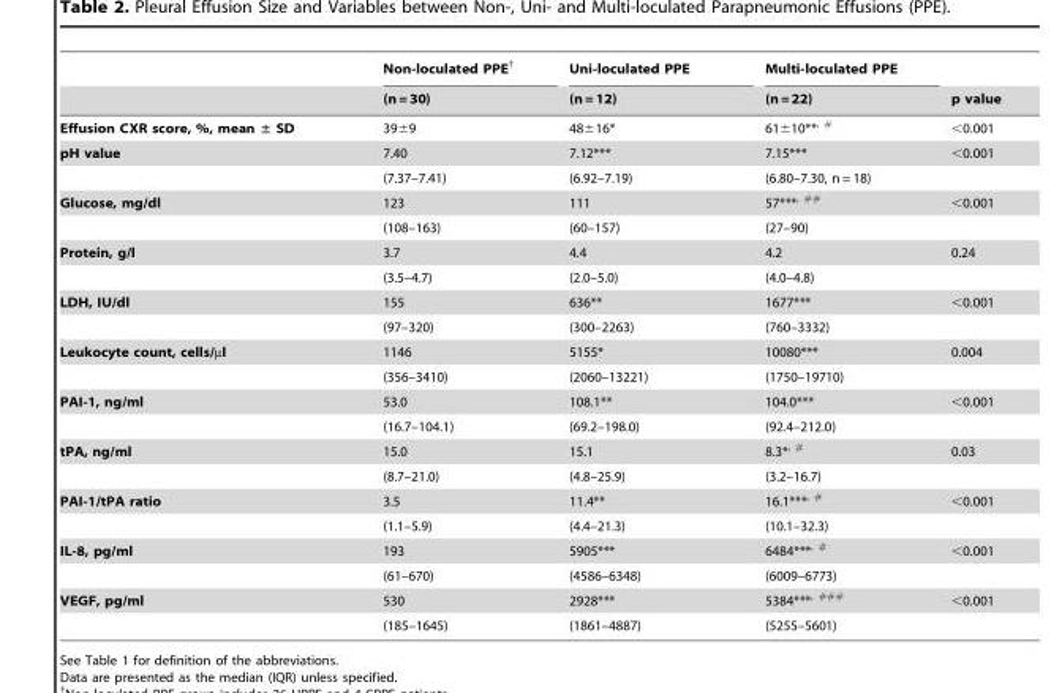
<table><thead><tr><td rowspan="2"></td><td rowspan="2">Non-loculated PPE† (n = 30)</td><td rowspan="2">Uni-loculated PPE (n = 12)</td><td rowspan="2">Multi-loculated PPE (n = 22)</td><td rowspan="2">p value</td></tr><tr></tr></thead><tbody><tr><td>Effusion CXR score, %, mean ± SD</td><td>39±9</td><td>48±16*</td><td>61±10**<sup>,</sup> #</td><td>&lt;0.001</td></tr><tr><td rowspan="2">pH value</td><td>7.40</td><td>7.12***</td><td>7.15***</td><td>&lt;0.001</td></tr><tr><td>(7.37–7.41)</td><td>(6.92–7.19)</td><td>(6.80–7.30, n = 18)</td><td></td></tr><tr><td rowspan="2">Glucose, mg/dl</td><td>123</td><td>111</td><td>57***<sup>,</sup> ##</td><td>&lt;0.001</td></tr><tr><td>(108–163)</td><td>(60–157)</td><td>(27–90)</td><td></td></tr><tr><td rowspan="2">Protein, g/l</td><td>3.7</td><td>4.4</td><td>4.2</td><td>0.24</td></tr><tr><td>(3.5–4.7)</td><td>(2.0–5.0)</td><td>(4.0–4.8)</td><td></td></tr><tr><td rowspan="2">LDH, IU/dl</td><td>155</td><td>636**</td><td>1677***</td><td>&lt;0.001</td></tr><tr><td>(97–320)</td><td>(300–2263)</td><td>(760–3332)</td><td></td></tr><tr><td rowspan="2">Leukocyte count, cells/µl</td><td>1146</td><td>5155*</td><td>10080***</td><td>0.004</td></tr><tr><td>(356–3410)</td><td>(2060–13221)</td><td>(1750–19710)</td><td></td></tr><tr><td rowspan="2">PAI-1, ng/ml</td><td>53.0</td><td>108.1**</td><td>104.0***</td><td>&lt;0.001</td></tr><tr><td>(16.7–104.1)</td><td>(69.2–198.0)</td><td>(92.4–212.0)</td><td></td></tr><tr><td rowspan="2">tPA, ng/ml</td><td>15.0</td><td>15.1</td><td>8.3*<sup>,</sup> #</td><td>0.03</td></tr><tr><td>(8.7–21.0)</td><td>(4.8–25.9)</td><td>(3.2–16.7)</td><td></td></tr><tr><td rowspan="2">PAI-1/tPA ratio</td><td>3.5</td><td>11.4**</td><td>16.1***<sup>,</sup> #</td><td>&lt;0.001</td></tr><tr><td>(1.1–5.9)</td><td>(4.4–21.3)</td><td>(10.1–32.3)</td><td></td></tr><tr><td rowspan="2">IL-8, pg/ml</td><td>193</td><td>5905***</td><td>6484***<sup>,</sup> #</td><td>&lt;0.001</td></tr><tr><td>(61–670)</td><td>(4586–6348)</td><td>(6009–6773)</td><td></td></tr><tr><td rowspan="2">VEGF, pg/ml</td><td>530</td><td>2928***</td><td>5384***<sup>,</sup> ###</td><td>&lt;0.001</td></tr><tr><td>(185–1645)</td><td>(1861–4887)</td><td>(5255–5601)</td><td></td></tr></tbody></table>